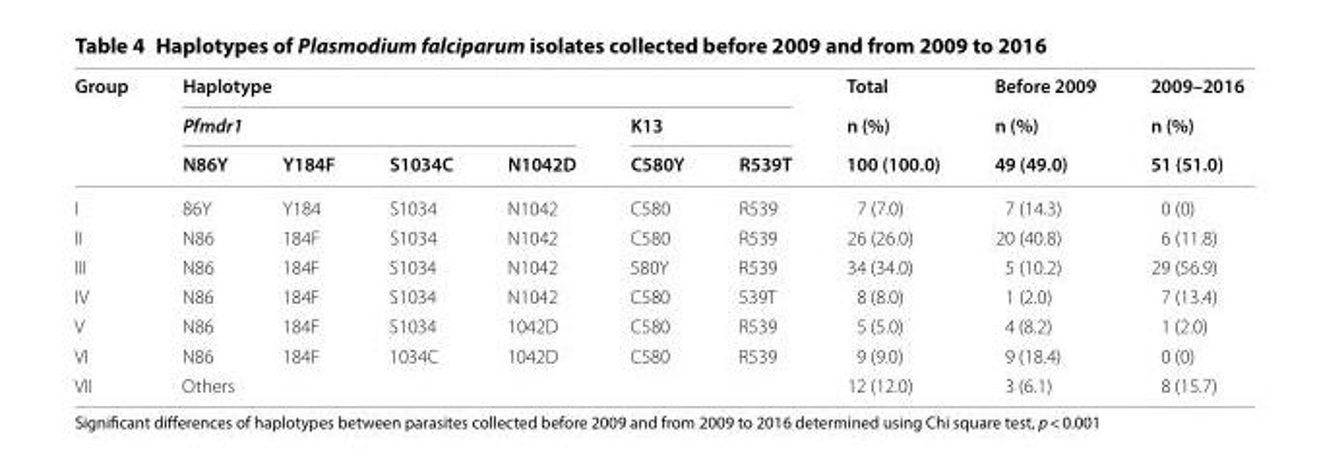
<table><thead><tr><td rowspan="3">Group</td><td colspan="6">Haplotype</td><td rowspan="3">Total n (%) 100 (100.0)</td><td rowspan="3">Before 2009 n (%) 49 (49.0)</td><td rowspan="3">2009–2016 n (%) 51 (51.0)</td></tr><tr><td colspan="4">Pfmdr1</td><td colspan="2">K13</td></tr><tr><td>N86Y</td><td>Y184F</td><td>S1034C</td><td>N1042D</td><td>C580Y</td><td>R539T</td></tr></thead><tbody><tr><td>I</td><td>86Y</td><td>Y184</td><td>S1034</td><td>N1042</td><td>C580</td><td>R539</td><td>7 (7.0)</td><td>7 (14.3)</td><td>0 (0)</td></tr><tr><td>II</td><td>N86</td><td>184F</td><td>S1034</td><td>N1042</td><td>C580</td><td>R539</td><td>26 (26.0)</td><td>20 (40.8)</td><td>6 (11.8)</td></tr><tr><td>III</td><td>N86</td><td>184F</td><td>S1034</td><td>N1042</td><td>580Y</td><td>R539</td><td>34 (34.0)</td><td>5 (10.2)</td><td>29 (56.9)</td></tr><tr><td>IV</td><td>N86</td><td>184F</td><td>S1034</td><td>N1042</td><td>C580</td><td>539T</td><td>8 (8.0)</td><td>1 (2.0)</td><td>7 (13.4)</td></tr><tr><td>V</td><td>N86</td><td>184F</td><td>S1034</td><td>1042D</td><td>C580</td><td>R539</td><td>5 (5.0)</td><td>4 (8.2)</td><td>1 (2.0)</td></tr><tr><td>VI</td><td>N86</td><td>184F</td><td>1034C</td><td>1042D</td><td>C580</td><td>R539</td><td>9 (9.0)</td><td>9 (18.4)</td><td>0 (0)</td></tr><tr><td>VII</td><td colspan="6">Others</td><td>12 (12.0)</td><td>3 (6.1)</td><td>8 (15.7)</td></tr></tbody></table>